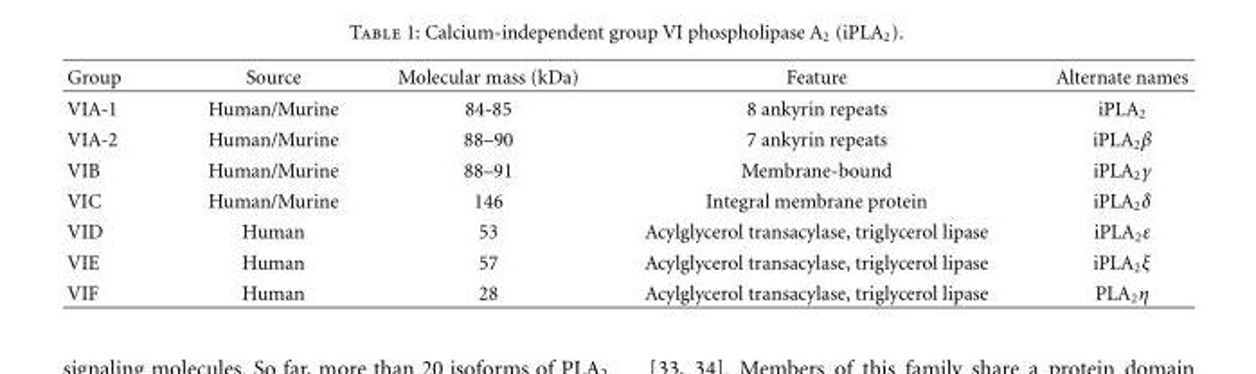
<table><thead><tr><td>Group</td><td>Source</td><td>Molecular mass (kDa)</td><td>Feature</td><td>Alternate names</td></tr></thead><tbody><tr><td>VIA-1</td><td>Human/Murine</td><td>84-85</td><td>8 ankyrin repeats</td><td>iPLA<sub>2</sub></td></tr><tr><td>VIA-2</td><td>Human/Murine</td><td>88–90</td><td>7 ankyrin repeats</td><td>iPLA<sub>2</sub>β</td></tr><tr><td>VIB</td><td>Human/Murine</td><td>88–91</td><td>Membrane-bound</td><td>iPLA<sub>2</sub>γ</td></tr><tr><td>VIC</td><td>Human/Murine</td><td>146</td><td>Integral membrane protein</td><td>iPLA<sub>2</sub>δ</td></tr><tr><td>VID</td><td>Human</td><td>53</td><td>Acylglycerol transacylase, triglycerol lipase</td><td>iPLA<sub>2</sub>ε</td></tr><tr><td>VIE</td><td>Human</td><td>57</td><td>Acylglycerol transacylase, triglycerol lipase</td><td>iPLA<sub>2</sub>ξ</td></tr><tr><td>VIF</td><td>Human</td><td>28</td><td>Acylglycerol transacylase, triglycerol lipase</td><td>PLA<sub>2</sub>η</td></tr></tbody></table>